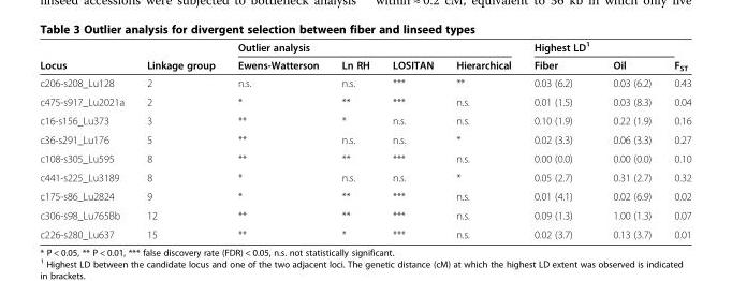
<table><thead><tr><td></td><td></td><td>Outlier analysis</td><td></td><td></td><td></td><td>Highest LD<sup>1</sup></td><td></td><td></td></tr></thead><tbody><tr><td>Locus</td><td>Linkage group</td><td>Ewens-Watterson</td><td>Ln RH</td><td>LOSITAN</td><td>Hierarchical</td><td>Fiber</td><td>Oil</td><td>F<sub>ST</sub></td></tr><tr><td>c206-s208_Lu128</td><td>2</td><td>n.s.</td><td>n.s.</td><td>***</td><td>**</td><td>0.03 (6.2)</td><td>0.03 (6.2)</td><td>0.43</td></tr><tr><td>c475-s917_Lu2021a</td><td>2</td><td>*</td><td>**</td><td>***</td><td>n.s.</td><td>0.01 (1.5)</td><td>0.03 (8.3)</td><td>0.04</td></tr><tr><td>c16-s156_Lu373</td><td>3</td><td>**</td><td>*</td><td>n.s.</td><td>n.s.</td><td>0.10 (1.9)</td><td>0.22 (1.9)</td><td>0.16</td></tr><tr><td>c36-s291_Lu176</td><td>5</td><td>**</td><td>n.s.</td><td>n.s.</td><td>*</td><td>0.02 (3.3)</td><td>0.06 (3.3)</td><td>0.27</td></tr><tr><td>c108-s305_Lu595</td><td>8</td><td>**</td><td>**</td><td>***</td><td>n.s.</td><td>0.00 (0.0)</td><td>0.00 (0.0)</td><td>0.10</td></tr><tr><td>c441-s225_Lu3189</td><td>8</td><td>*</td><td>n.s.</td><td>n.s.</td><td>*</td><td>0.05 (2.7)</td><td>0.31 (2.7)</td><td>0.32</td></tr><tr><td>c175-s86_Lu2824</td><td>9</td><td>*</td><td>**</td><td>***</td><td>n.s.</td><td>0.01 (4.1)</td><td>0.02 (6.9)</td><td>0.02</td></tr><tr><td>c306-s98_Lu765Bb</td><td>12</td><td>**</td><td>**</td><td>***</td><td>n.s.</td><td>0.09 (1.3)</td><td>1.00 (1.3)</td><td>0.07</td></tr><tr><td>c226-s280_Lu637</td><td>15</td><td>**</td><td>*</td><td>***</td><td>n.s.</td><td>0.02 (3.7)</td><td>0.13 (3.7)</td><td>0.01</td></tr></tbody></table>